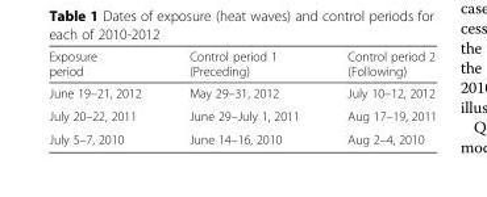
<table><thead><tr><td>Exposure period</td><td>Control period 1 (Preceding)</td><td>Control period 2 (Following)</td></tr></thead><tbody><tr><td>June 19–21, 2012</td><td>May 29–31, 2012</td><td>July 10–12, 2012</td></tr><tr><td>July 20–22, 2011</td><td>June 29–July 1, 2011</td><td>Aug 17–19, 2011</td></tr><tr><td>July 5–7, 2010</td><td>June 14–16, 2010</td><td>Aug 2–4, 2010</td></tr></tbody></table>